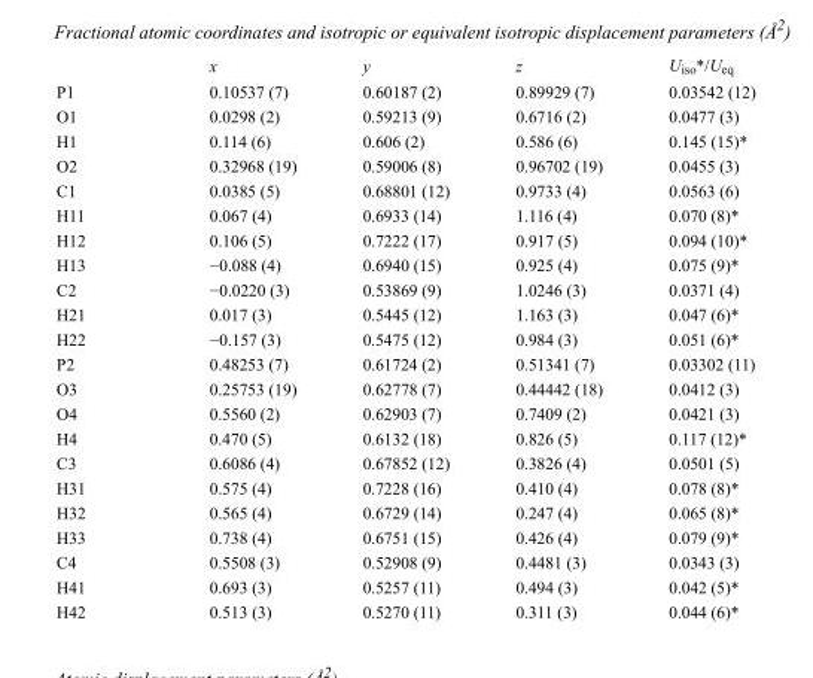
<table><thead><tr><td></td><td>x</td><td>y</td><td>z</td><td>U<sub>iso</sub>*/U<sub>eq</sub></td></tr></thead><tbody><tr><td>P1</td><td>0.10537 (7)</td><td>0.60187 (2)</td><td>0.89929 (7)</td><td>0.03542 (12)</td></tr><tr><td>O1</td><td>0.0298 (2)</td><td>0.59213 (9)</td><td>0.6716 (2)</td><td>0.0477 (3)</td></tr><tr><td>H1</td><td>0.114 (6)</td><td>0.606 (2)</td><td>0.586 (6)</td><td>0.145 (15)*</td></tr><tr><td>O2</td><td>0.32968 (19)</td><td>0.59006 (8)</td><td>0.96702 (19)</td><td>0.0455 (3)</td></tr><tr><td>C1</td><td>0.0385 (5)</td><td>0.68801 (12)</td><td>0.9733 (4)</td><td>0.0563 (6)</td></tr><tr><td>H11</td><td>0.067 (4)</td><td>0.6933 (14)</td><td>1.116 (4)</td><td>0.070 (8)*</td></tr><tr><td>H12</td><td>0.106 (5)</td><td>0.7222 (17)</td><td>0.917 (5)</td><td>0.094 (10)*</td></tr><tr><td>H13</td><td>−0.088 (4)</td><td>0.6940 (15)</td><td>0.925 (4)</td><td>0.075 (9)*</td></tr><tr><td>C2</td><td>−0.0220 (3)</td><td>0.53869 (9)</td><td>1.0246 (3)</td><td>0.0371 (4)</td></tr><tr><td>H21</td><td>0.017 (3)</td><td>0.5445 (12)</td><td>1.163 (3)</td><td>0.047 (6)*</td></tr><tr><td>H22</td><td>−0.157 (3)</td><td>0.5475 (12)</td><td>0.984 (3)</td><td>0.051 (6)*</td></tr><tr><td>P2</td><td>0.48253 (7)</td><td>0.61724 (2)</td><td>0.51341 (7)</td><td>0.03302 (11)</td></tr><tr><td>O3</td><td>0.25753 (19)</td><td>0.62778 (7)</td><td>0.44442 (18)</td><td>0.0412 (3)</td></tr><tr><td>O4</td><td>0.5560 (2)</td><td>0.62903 (7)</td><td>0.7409 (2)</td><td>0.0421 (3)</td></tr><tr><td>H4</td><td>0.470 (5)</td><td>0.6132 (18)</td><td>0.826 (5)</td><td>0.117 (12)*</td></tr><tr><td>C3</td><td>0.6086 (4)</td><td>0.67852 (12)</td><td>0.3826 (4)</td><td>0.0501 (5)</td></tr><tr><td>H31</td><td>0.575 (4)</td><td>0.7228 (16)</td><td>0.410 (4)</td><td>0.078 (8)*</td></tr><tr><td>H32</td><td>0.565 (4)</td><td>0.6729 (14)</td><td>0.247 (4)</td><td>0.065 (8)*</td></tr><tr><td>H33</td><td>0.738 (4)</td><td>0.6751 (15)</td><td>0.426 (4)</td><td>0.079 (9)*</td></tr><tr><td>C4</td><td>0.5508 (3)</td><td>0.52908 (9)</td><td>0.4481 (3)</td><td>0.0343 (3)</td></tr><tr><td>H41</td><td>0.693 (3)</td><td>0.5257 (11)</td><td>0.494 (3)</td><td>0.042 (5)*</td></tr><tr><td>H42</td><td>0.513 (3)</td><td>0.5270 (11)</td><td>0.311 (3)</td><td>0.044 (6)*</td></tr></tbody></table>